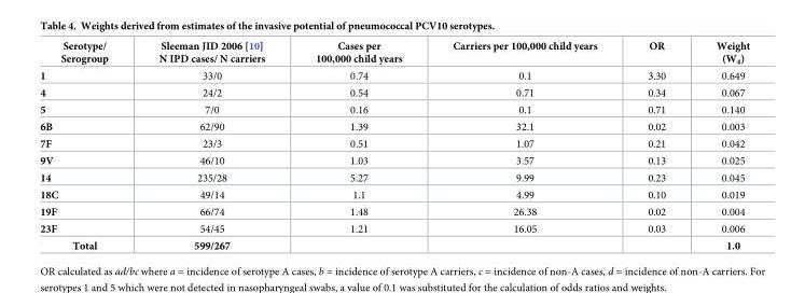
<table><thead><tr><td>Serotype/ Serogroup</td><td>Sleeman JID 2006 [10] N IPD cases/ N carriers</td><td>Cases per 100,000 child years</td><td>Carriers per 100,000 child years</td><td>OR</td><td>Weight (W<sub>4</sub>)</td></tr></thead><tbody><tr><td>1</td><td>33/0</td><td>0.74</td><td>0.1</td><td>3.30</td><td>0.649</td></tr><tr><td>4</td><td>24/2</td><td>0.54</td><td>0.71</td><td>0.34</td><td>0.067</td></tr><tr><td>5</td><td>7/0</td><td>0.16</td><td>0.1</td><td>0.71</td><td>0.140</td></tr><tr><td>6B</td><td>62/90</td><td>1.39</td><td>32.1</td><td>0.02</td><td>0.003</td></tr><tr><td>7F</td><td>23/3</td><td>0.51</td><td>1.07</td><td>0.21</td><td>0.042</td></tr><tr><td>9V</td><td>46/10</td><td>1.03</td><td>3.57</td><td>0.13</td><td>0.025</td></tr><tr><td>14</td><td>235/28</td><td>5.27</td><td>9.99</td><td>0.23</td><td>0.045</td></tr><tr><td>18C</td><td>49/14</td><td>1.1</td><td>4.99</td><td>0.10</td><td>0.019</td></tr><tr><td>19F</td><td>66/74</td><td>1.48</td><td>26.38</td><td>0.02</td><td>0.004</td></tr><tr><td>23F</td><td>54/45</td><td>1.21</td><td>16.05</td><td>0.03</td><td>0.006</td></tr><tr><td>Total</td><td>599/267</td><td></td><td></td><td></td><td>1.0</td></tr></tbody></table>